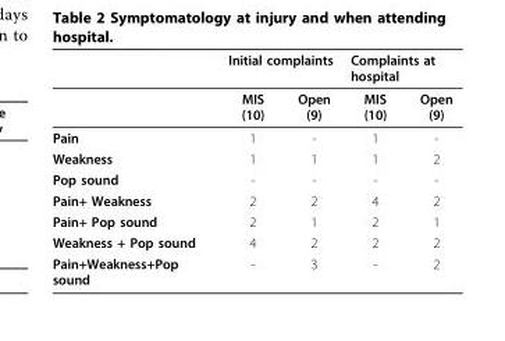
<table><thead><tr><td rowspan="2"></td><td colspan="2">Initial complaints</td><td colspan="2">Complaints at hospital</td></tr><tr><td>MIS (10)</td><td>Open (9)</td><td>MIS (10)</td><td>Open (9)</td></tr></thead><tbody><tr><td>Pain</td><td>1</td><td>-</td><td>1</td><td>-</td></tr><tr><td>Weakness</td><td>1</td><td>1</td><td>1</td><td>2</td></tr><tr><td>Pop sound</td><td>-</td><td>-</td><td>-</td><td>-</td></tr><tr><td>Pain+ Weakness</td><td>2</td><td>2</td><td>4</td><td>2</td></tr><tr><td>Pain+ Pop sound</td><td>2</td><td>1</td><td>2</td><td>1</td></tr><tr><td>Weakness + Pop sound</td><td>4</td><td>2</td><td>2</td><td>2</td></tr><tr><td>Pain+Weakness+Pop sound</td><td>-</td><td>3</td><td>-</td><td>2</td></tr></tbody></table>